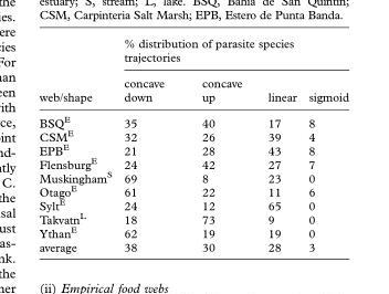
<table><thead><tr><td rowspan="2">web/shape</td><td colspan="4">% distribution of parasite species trajectories</td></tr><tr><td>concave down</td><td>concave up</td><td>linear</td><td>sigmoid</td></tr></thead><tbody><tr><td>BSQ<sup>E</sup></td><td>35</td><td>40</td><td>17</td><td>8</td></tr><tr><td>CSM<sup>E</sup></td><td>32</td><td>26</td><td>39</td><td>4</td></tr><tr><td>EPB<sup>E</sup></td><td>21</td><td>28</td><td>43</td><td>8</td></tr><tr><td>Flensburg<sup>E</sup></td><td>24</td><td>42</td><td>27</td><td>7</td></tr><tr><td>Muskingham<sup>S</sup></td><td>69</td><td>8</td><td>23</td><td>0</td></tr><tr><td>Otago<sup>E</sup></td><td>61</td><td>22</td><td>11</td><td>6</td></tr><tr><td>Sylt<sup>E</sup></td><td>24</td><td>12</td><td>65</td><td>0</td></tr><tr><td>Takvatn<sup>L</sup></td><td>18</td><td>73</td><td>9</td><td>0</td></tr><tr><td>Ythan<sup>E</sup></td><td>62</td><td>19</td><td>19</td><td>0</td></tr><tr><td>average</td><td>38</td><td>30</td><td>28</td><td>3</td></tr></tbody></table>